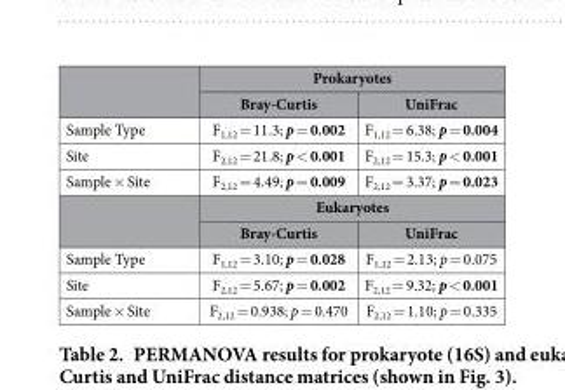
<table><thead><tr><td rowspan="2"></td><td colspan="2">Prokaryotes</td></tr><tr><td>Bray-Curtis</td><td>UniFrac</td></tr></thead><tbody><tr><td>Sample Type</td><td>F<sub>1,12</sub> = 11.3; p = 0.002</td><td>F<sub>1,12</sub> = 6.38; p = 0.004</td></tr><tr><td>Site</td><td>F<sub>2,12</sub> = 21.8; p &lt; 0.001</td><td>F<sub>2,12</sub> = 15.3; p &lt; 0.001</td></tr><tr><td rowspan="3">Sample × Site</td><td>F<sub>2,12</sub> = 4.49; p = 0.009</td><td>F<sub>2,12</sub> = 3.37; p = 0.023</td></tr><tr><td colspan="2">Eukaryotes</td></tr><tr><td>Bray-Curtis</td><td>UniFrac</td></tr><tr><td>Sample Type</td><td>F<sub>1,12</sub> = 3.10; p = 0.028</td><td>F<sub>1,12</sub> = 2.13; p = 0.075</td></tr><tr><td>Site</td><td>F<sub>2,12</sub> = 5.67; p = 0.002</td><td>F<sub>2,12</sub> = 9.32; p &lt; 0.001</td></tr><tr><td>Sample × Site</td><td>F<sub>2,12</sub> = 0.938; p = 0.470</td><td>F<sub>2,12</sub> = 1.10; p = 0.335</td></tr></tbody></table>